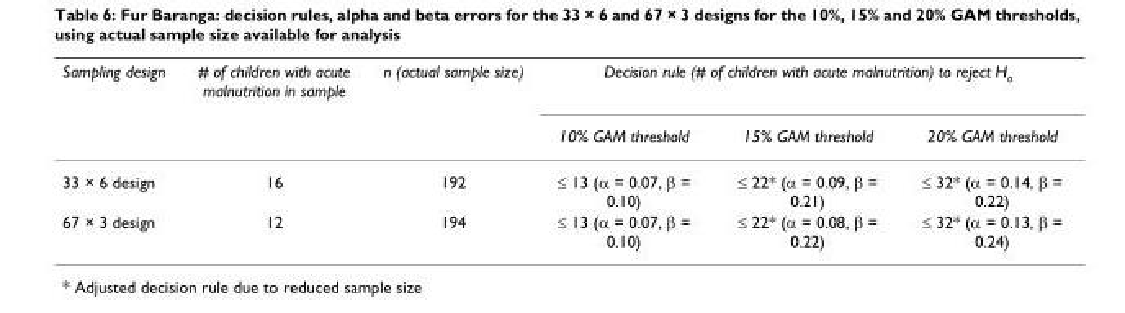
<table><thead><tr><td rowspan="2">Sampling design</td><td rowspan="2"># of children with acute malnutrition in sample</td><td rowspan="2">n (actual sample size)</td><td colspan="3">Decision rule (# of children with acute malnutrition) to reject H<sub>o</sub></td></tr><tr><td>10% GAM threshold</td><td>15% GAM threshold</td><td>20% GAM threshold</td></tr></thead><tbody><tr><td>33 × 6 design</td><td>16</td><td>192</td><td>≤ 13 (α = 0.07, β = 0.10)</td><td>≤ 22* (α = 0.09, β = 0.21)</td><td>≤ 32* (α = 0.14, β = 0.22)</td></tr><tr><td>67 × 3 design</td><td>12</td><td>194</td><td>≤ 13 (α = 0.07, β = 0.10)</td><td>≤ 22* (α = 0.08, β = 0.22)</td><td>≤ 32* (α = 0.13, β = 0.24)</td></tr></tbody></table>